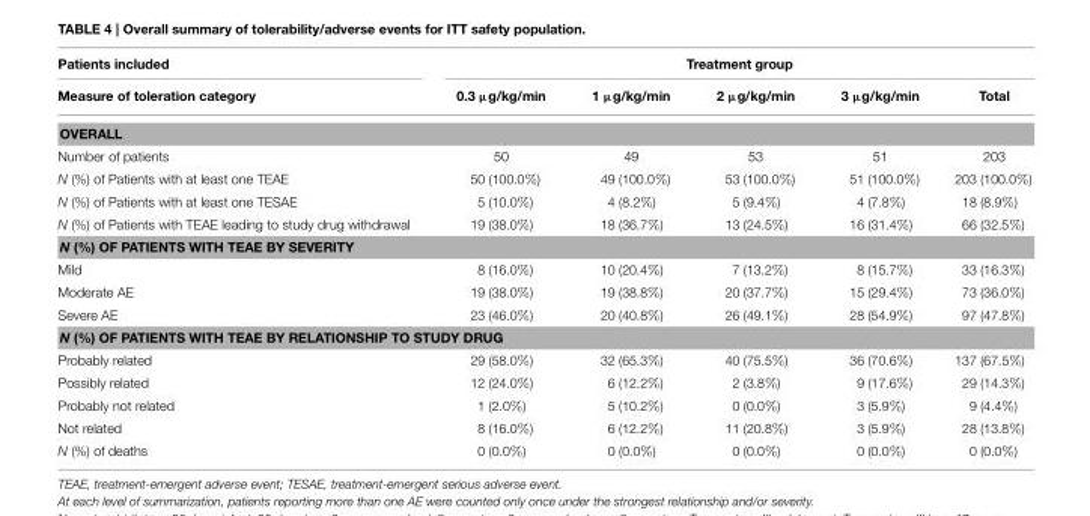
<table><thead><tr><td rowspan="2">Patients included Measure of toleration category</td><td colspan="5">Treatment group</td></tr><tr><td>0.3 µg/kg/min</td><td>1 µg/kg/min</td><td>2 µg/kg/min</td><td>3 µg/kg/min</td><td>Total</td></tr></thead><tbody><tr><td colspan="6">OVERALL</td></tr><tr><td>Number of patients</td><td>50</td><td>49</td><td>53</td><td>51</td><td>203</td></tr><tr><td>N (%) of Patients with at least one TEAE</td><td>50 (100.0%)</td><td>49 (100.0%)</td><td>53 (100.0%)</td><td>51 (100.0%)</td><td>203 (100.0%)</td></tr><tr><td>N (%) of Patients with at least one TESAE</td><td>5 (10.0%)</td><td>4 (8.2%)</td><td>5 (9.4%)</td><td>4 (7.8%)</td><td>18 (8.9%)</td></tr><tr><td>N (%) of Patients with TEAE leading to study drug withdrawal</td><td>19 (38.0%)</td><td>18 (36.7%)</td><td>13 (24.5%)</td><td>16 (31.4%)</td><td>66 (32.5%)</td></tr><tr><td colspan="6">N (%) OF PATIENTS WITH TEAE BY SEVERITY</td></tr><tr><td>Mild</td><td>8 (16.0%)</td><td>10 (20.4%)</td><td>7 (13.2%)</td><td>8 (15.7%)</td><td>33 (16.3%)</td></tr><tr><td>Moderate AE</td><td>19 (38.0%)</td><td>19 (38.8%)</td><td>20 (37.7%)</td><td>15 (29.4%)</td><td>73 (36.0%)</td></tr><tr><td>Severe AE</td><td>23 (46.0%)</td><td>20 (40.8%)</td><td>26 (49.1%)</td><td>28 (54.9%)</td><td>97 (47.8%)</td></tr><tr><td colspan="6">N (%) OF PATIENTS WITH TEAE BY RELATIONSHIP TO STUDY DRUG</td></tr><tr><td>Probably related</td><td>29 (58.0%)</td><td>32 (65.3%)</td><td>40 (75.5%)</td><td>36 (70.6%)</td><td>137 (67.5%)</td></tr><tr><td>Possibly related</td><td>12 (24.0%)</td><td>6 (12.2%)</td><td>2 (3.8%)</td><td>9 (17.6%)</td><td>29 (14.3%)</td></tr><tr><td>Probably not related</td><td>1 (2.0%)</td><td>5 (10.2%)</td><td>0 (0.0%)</td><td>3 (5.9%)</td><td>9 (4.4%)</td></tr><tr><td>Not related</td><td>8 (16.0%)</td><td>6 (12.2%)</td><td>11 (20.8%)</td><td>3 (5.9%)</td><td>28 (13.8%)</td></tr><tr><td>N (%) of deaths</td><td>0 (0.0%)</td><td>0 (0.0%)</td><td>0 (0.0%)</td><td>0 (0.0%)</td><td>0 (0.0%)</td></tr></tbody></table>